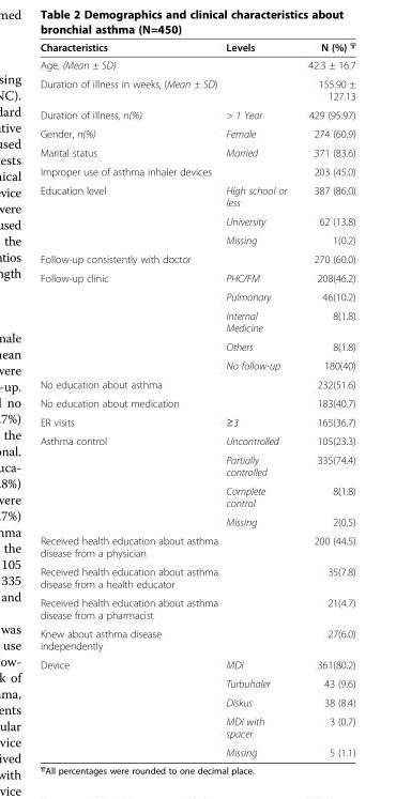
<table><thead><tr><td>Characteristics</td><td>Levels</td><td>N (%) <sup>╦</sup></td></tr></thead><tbody><tr><td>Age, (Mean ± SD)</td><td></td><td>42.3 ± 16.7</td></tr><tr><td>Duration of illness in weeks, (Mean ± SD)</td><td></td><td>155.90 ± 127.13</td></tr><tr><td>Duration of illness, n(%)</td><td>&gt; 1 Year</td><td>429 (95.97)</td></tr><tr><td>Gender, n(%)</td><td>Female</td><td>274 (60.9)</td></tr><tr><td>Marital status</td><td>Married</td><td>371 (83.6)</td></tr><tr><td>Improper use of asthma inhaler devices</td><td></td><td>203 (45.0)</td></tr><tr><td rowspan="3">Education level</td><td>High school or less</td><td>387 (86.0)</td></tr><tr><td>University</td><td>62 (13.8)</td></tr><tr><td>Missing</td><td>1(0.2)</td></tr><tr><td>Follow-up consistently with doctor</td><td></td><td>270 (60.0)</td></tr><tr><td rowspan="5">Follow-up clinic</td><td>PHC/FM</td><td>208(46.2)</td></tr><tr><td>Pulmonary</td><td>46(10.2)</td></tr><tr><td>Internal Medicine</td><td>8(1.8)</td></tr><tr><td>Others</td><td>8(1.8)</td></tr><tr><td>No follow-up</td><td>180(40)</td></tr><tr><td>No education about asthma</td><td></td><td>232(51.6)</td></tr><tr><td>No education about medication</td><td></td><td>183(40.7)</td></tr><tr><td>ER visits</td><td>≥3</td><td>165(36.7)</td></tr><tr><td rowspan="4">Asthma control</td><td>Uncontrolled</td><td>105(23.3)</td></tr><tr><td>Partially controlled</td><td>335(74.4)</td></tr><tr><td>Complete control</td><td>8(1.8)</td></tr><tr><td>Missing</td><td>2(0.5)</td></tr><tr><td>Received health education about asthma disease from a physician</td><td></td><td>200 (44.5)</td></tr><tr><td>Received health education about asthma disease from a health educator</td><td></td><td>35(7.8)</td></tr><tr><td>Received health education about asthma disease from a pharmacist</td><td></td><td>21(4.7)</td></tr><tr><td>Knew about asthma disease independently</td><td></td><td>27(6.0)</td></tr><tr><td rowspan="5">Device</td><td>MDI</td><td>361(80.2)</td></tr><tr><td>Turbuhaler</td><td>43 (9.6)</td></tr><tr><td>Diskus</td><td>38 (8.4)</td></tr><tr><td>MDI with spacer</td><td>3 (0.7)</td></tr><tr><td>Missing</td><td>5 (1.1)</td></tr></tbody></table>